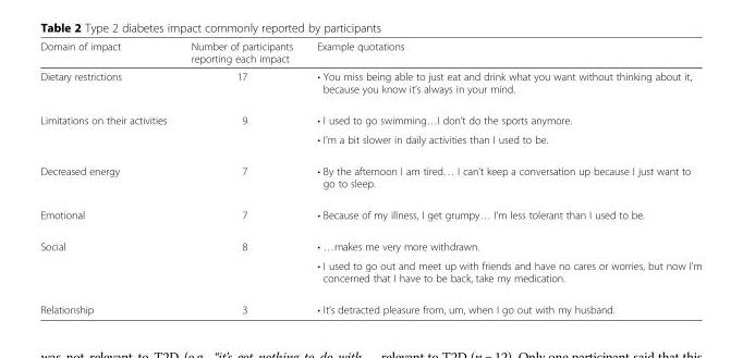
<table><thead><tr><td>Domain of impact</td><td>Number of participants reporting each impact</td><td>Example quotations</td></tr></thead><tbody><tr><td>Dietary restrictions</td><td>17</td><td>• You miss being able to just eat and drink what you want without thinking about it, because you know it’s always in your mind.</td></tr><tr><td rowspan="2">Limitations on their activities</td><td rowspan="2">9</td><td>• I used to go swimming…I don’t do the sports anymore.</td></tr><tr><td>• I’m a bit slower in daily activities than I used to be.</td></tr><tr><td>Decreased energy</td><td>7</td><td>• By the afternoon I am tired… I can’t keep a conversation up because I just want to go to sleep.</td></tr><tr><td>Emotional</td><td>7</td><td>• Because of my illness, I get grumpy… I’m less tolerant than I used to be.</td></tr><tr><td rowspan="2">Social</td><td rowspan="2">8</td><td>• …makes me very more withdrawn.</td></tr><tr><td>• I used to go out and meet up with friends and have no cares or worries, but now I’m concerned that I have to be back, take my medication.</td></tr><tr><td>Relationship</td><td>3</td><td>• It’s detracted pleasure from, um, when I go out with my husband.</td></tr></tbody></table>